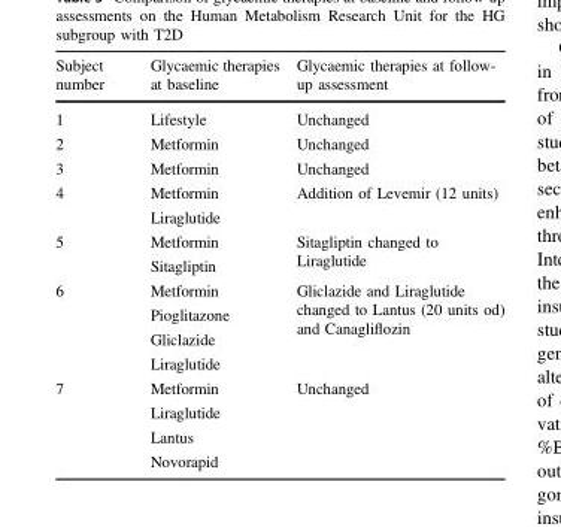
<table><thead><tr><td>Subject number</td><td>Glycaemic therapies at baseline</td><td>Glycaemic therapies at follow- up assessment</td></tr></thead><tbody><tr><td>1</td><td>Lifestyle</td><td>Unchanged</td></tr><tr><td>2</td><td>Metformin</td><td>Unchanged</td></tr><tr><td>3</td><td>Metformin</td><td>Unchanged</td></tr><tr><td rowspan="2">4</td><td>Metformin</td><td rowspan="2">Addition of Levemir (12 units)</td></tr><tr><td>Liraglutide</td></tr><tr><td rowspan="2">5</td><td>Metformin</td><td rowspan="2">Sitagliptin changed to Liraglutide</td></tr><tr><td>Sitagliptin</td></tr><tr><td rowspan="4">6</td><td>Metformin</td><td rowspan="4">Gliclazide and Liraglutide changed to Lantus (20 units od) and Canagliflozin</td></tr><tr><td>Pioglitazone</td></tr><tr><td>Gliclazide</td></tr><tr><td>Liraglutide</td></tr><tr><td rowspan="4">7</td><td>Metformin</td><td rowspan="4">Unchanged</td></tr><tr><td>Liraglutide</td></tr><tr><td>Lantus</td></tr><tr><td>Novorapid</td></tr></tbody></table>